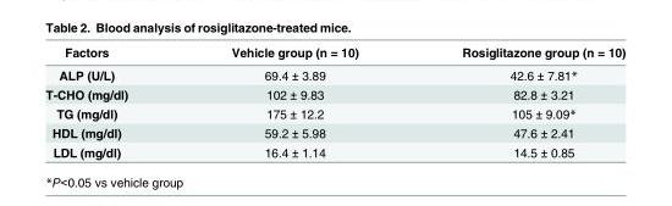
<table><thead><tr><td>Factors</td><td>Vehicle group (n = 10)</td><td>Rosiglitazone group (n = 10)</td></tr></thead><tbody><tr><td>ALP (U/L)</td><td>69.4 ± 3.89</td><td>42.6 ± 7.81*</td></tr><tr><td>T-CHO (mg/dl)</td><td>102 ± 9.83</td><td>82.8 ± 3.21</td></tr><tr><td>TG (mg/dl)</td><td>175 ± 12.2</td><td>105 ± 9.09*</td></tr><tr><td>HDL (mg/dl)</td><td>59.2 ± 5.98</td><td>47.6 ± 2.41</td></tr><tr><td>LDL (mg/dl)</td><td>16.4 ± 1.14</td><td>14.5 ± 0.85</td></tr></tbody></table>